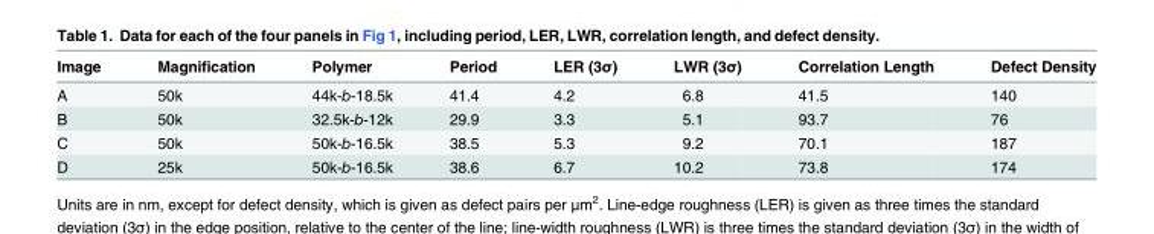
<table><thead><tr><td>Image</td><td>Magnification</td><td>Polymer</td><td>Period</td><td>LER (3σ)</td><td>LWR (3σ)</td><td>Correlation Length</td><td>Defect Density</td></tr></thead><tbody><tr><td>A</td><td>50k</td><td>44k-b-18.5k</td><td>41.4</td><td>4.2</td><td>6.8</td><td>41.5</td><td>140</td></tr><tr><td>B</td><td>50k</td><td>32.5k-b-12k</td><td>29.9</td><td>3.3</td><td>5.1</td><td>93.7</td><td>76</td></tr><tr><td>C</td><td>50k</td><td>50k-b-16.5k</td><td>38.5</td><td>5.3</td><td>9.2</td><td>70.1</td><td>187</td></tr><tr><td>D</td><td>25k</td><td>50k-b-16.5k</td><td>38.6</td><td>6.7</td><td>10.2</td><td>73.8</td><td>174</td></tr></tbody></table>